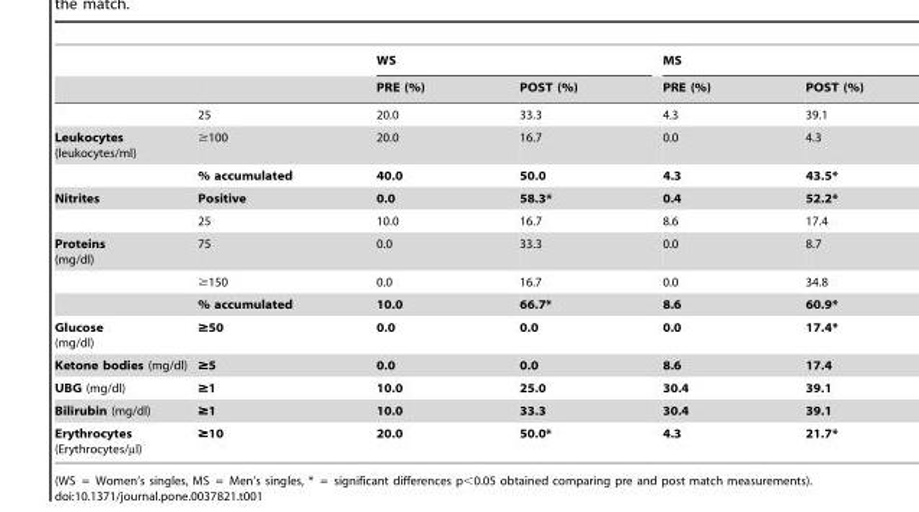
<table><thead><tr><td rowspan="2"></td><td rowspan="2"></td><td colspan="2">WS</td><td colspan="2">MS</td></tr><tr><td>PRE (%)</td><td>POST (%)</td><td>PRE (%)</td><td>POST (%)</td></tr></thead><tbody><tr><td></td><td>25</td><td>20.0</td><td>33.3</td><td>4.3</td><td>39.1</td></tr><tr><td rowspan="2">Leukocytes (leukocytes/ml)</td><td>≥100</td><td>20.0</td><td>16.7</td><td>0.0</td><td>4.3</td></tr><tr><td>% accumulated</td><td>40.0</td><td>50.0</td><td>4.3</td><td>43.5*</td></tr><tr><td rowspan="2">Nitrites</td><td>Positive</td><td>0.0</td><td>58.3*</td><td>0.4</td><td>52.2*</td></tr><tr><td>25</td><td>10.0</td><td>16.7</td><td>8.6</td><td>17.4</td></tr><tr><td rowspan="3">Proteins (mg/dl)</td><td>75</td><td>0.0</td><td>33.3</td><td>0.0</td><td>8.7</td></tr><tr><td>≥150</td><td>0.0</td><td>16.7</td><td>0.0</td><td>34.8</td></tr><tr><td>% accumulated</td><td>10.0</td><td>66.7*</td><td>8.6</td><td>60.9*</td></tr><tr><td>Glucose (mg/dl)</td><td>≥50</td><td>0.0</td><td>0.0</td><td>0.0</td><td>17.4*</td></tr><tr><td>Ketone bodies (mg/dl)</td><td>≥5</td><td>0.0</td><td>0.0</td><td>8.6</td><td>17.4</td></tr><tr><td>UBG (mg/dl)</td><td>≥1</td><td>10.0</td><td>25.0</td><td>30.4</td><td>39.1</td></tr><tr><td>Bilirubin (mg/dl)</td><td>≥1</td><td>10.0</td><td>33.3</td><td>30.4</td><td>39.1</td></tr><tr><td>Erythrocytes (Erythrocytes/µl)</td><td>≥10</td><td>20.0</td><td>50.0*</td><td>4.3</td><td>21.7*</td></tr></tbody></table>